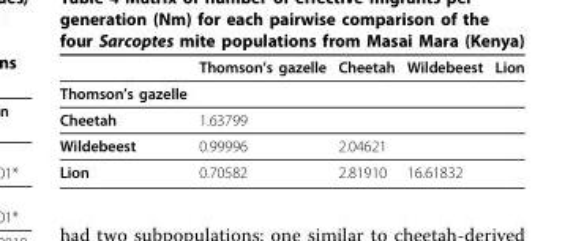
<table><thead><tr><td></td><td>Thomson’s gazelle</td><td>Cheetah</td><td>Wildebeest</td><td>Lion</td></tr></thead><tbody><tr><td colspan="5">Thomson’s gazelle</td></tr><tr><td>Cheetah</td><td>1.63799</td><td></td><td></td><td></td></tr><tr><td>Wildebeest</td><td>0.99996</td><td>2.04621</td><td></td><td></td></tr><tr><td>Lion</td><td>0.70582</td><td>2.81910</td><td>16.61832</td><td></td></tr></tbody></table>